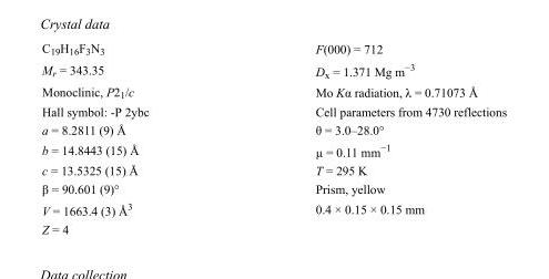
<table><tbody><tr><td>C<sub>19</sub>H<sub>16</sub>F<sub>3</sub>N<sub>3</sub></td><td>F(000) = 712</td></tr><tr><td>M<sub>r</sub> = 343.35</td><td>D<sub>x</sub> = 1.371 Mg m<sup>−3</sup></td></tr><tr><td>Monoclinic, P2<sub>1</sub>/c</td><td>Mo Kα radiation, λ = 0.71073 Å</td></tr><tr><td>Hall symbol: -P 2ybc</td><td>Cell parameters from 4730 reflections</td></tr><tr><td>a = 8.2811 (9) Å</td><td>θ = 3.0–28.0°</td></tr><tr><td>b = 14.8443 (15) Å</td><td>µ = 0.11 mm<sup>−1</sup></td></tr><tr><td>c = 13.5325 (15) Å</td><td>T = 295 K</td></tr><tr><td>β = 90.601 (9)°</td><td>Prism, yellow</td></tr><tr><td>V = 1663.4 (3) Å<sup>3</sup></td><td>0.4 × 0.15 × 0.15 mm</td></tr><tr><td>Z = 4</td><td></td></tr></tbody></table>